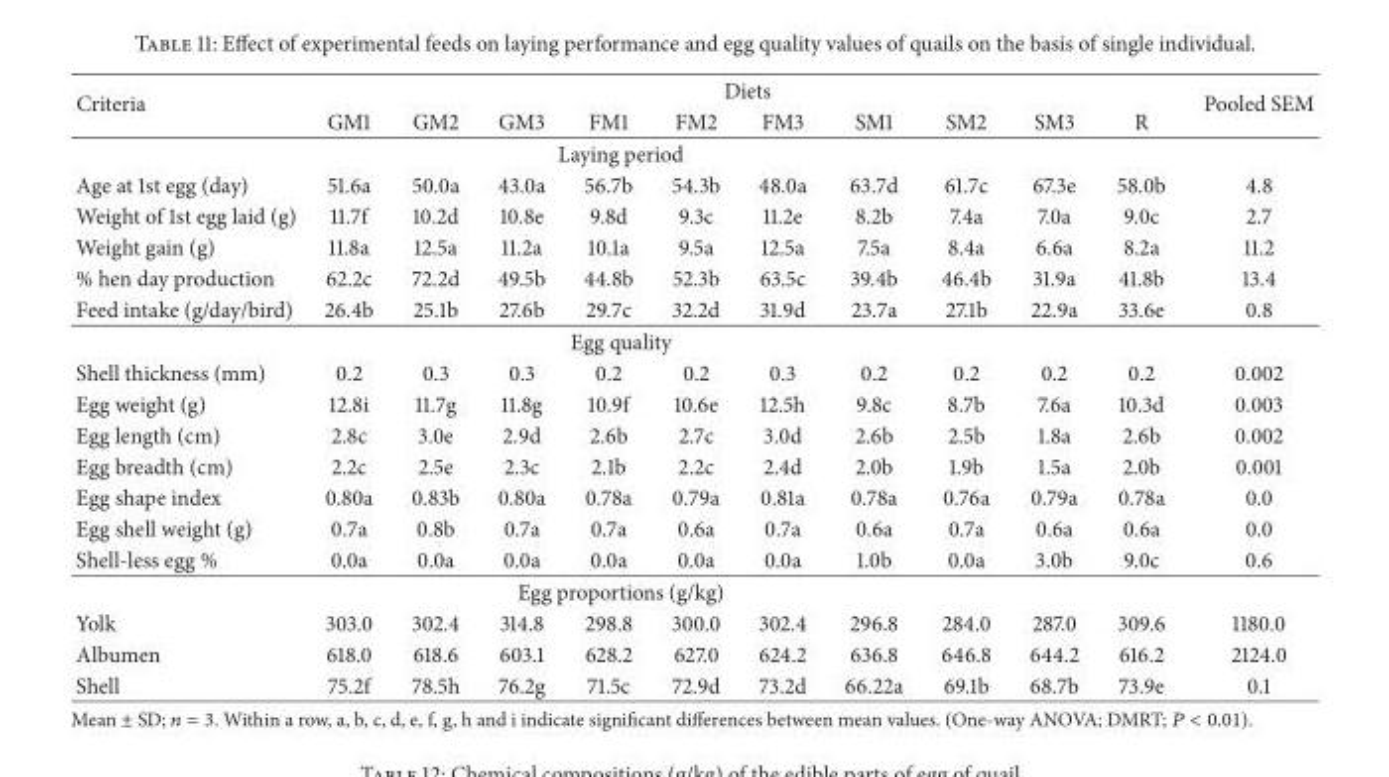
<table><thead><tr><td rowspan="2">Criteria</td><td colspan="10">Diets</td><td rowspan="2">Pooled SEM</td></tr><tr><td>GM1</td><td>GM2</td><td>GM3</td><td>FM1</td><td>FM2</td><td>FM3</td><td>SM1</td><td>SM2</td><td>SM3</td><td>R</td></tr></thead><tbody><tr><td colspan="12">Laying period</td></tr><tr><td>Age at 1st egg (day)</td><td>51.6a</td><td>50.0a</td><td>43.0a</td><td>56.7b</td><td>54.3b</td><td>48.0a</td><td>63.7d</td><td>61.7c</td><td>67.3e</td><td>58.0b</td><td>4.8</td></tr><tr><td>Weight of 1st egg laid (g)</td><td>11.7f</td><td>10.2d</td><td>10.8e</td><td>9.8d</td><td>9.3c</td><td>11.2e</td><td>8.2b</td><td>7.4a</td><td>7.0a</td><td>9.0c</td><td>2.7</td></tr><tr><td>Weight gain (g)</td><td>11.8a</td><td>12.5a</td><td>11.2a</td><td>10.1a</td><td>9.5a</td><td>12.5a</td><td>7.5a</td><td>8.4a</td><td>6.6a</td><td>8.2a</td><td>11.2</td></tr><tr><td>% hen day production</td><td>62.2c</td><td>72.2d</td><td>49.5b</td><td>44.8b</td><td>52.3b</td><td>63.5c</td><td>39.4b</td><td>46.4b</td><td>31.9a</td><td>41.8b</td><td>13.4</td></tr><tr><td>Feed intake (g/day/bird)</td><td>26.4b</td><td>25.1b</td><td>27.6b</td><td>29.7c</td><td>32.2d</td><td>31.9d</td><td>23.7a</td><td>27.1b</td><td>22.9a</td><td>33.6e</td><td>0.8</td></tr><tr><td colspan="12">Egg quality</td></tr><tr><td>Shell thickness (mm)</td><td>0.2</td><td>0.3</td><td>0.3</td><td>0.2</td><td>0.2</td><td>0.3</td><td>0.2</td><td>0.2</td><td>0.2</td><td>0.2</td><td>0.002</td></tr><tr><td>Egg weight (g)</td><td>12.8i</td><td>11.7g</td><td>11.8g</td><td>10.9f</td><td>10.6e</td><td>12.5h</td><td>9.8c</td><td>8.7b</td><td>7.6a</td><td>10.3d</td><td>0.003</td></tr><tr><td>Egg length (cm)</td><td>2.8c</td><td>3.0e</td><td>2.9d</td><td>2.6b</td><td>2.7c</td><td>3.0d</td><td>2.6b</td><td>2.5b</td><td>1.8a</td><td>2.6b</td><td>0.002</td></tr><tr><td>Egg breadth (cm)</td><td>2.2c</td><td>2.5e</td><td>2.3c</td><td>2.1b</td><td>2.2c</td><td>2.4d</td><td>2.0b</td><td>1.9b</td><td>1.5a</td><td>2.0b</td><td>0.001</td></tr><tr><td>Egg shape index</td><td>0.80a</td><td>0.83b</td><td>0.80a</td><td>0.78a</td><td>0.79a</td><td>0.81a</td><td>0.78a</td><td>0.76a</td><td>0.79a</td><td>0.78a</td><td>0.0</td></tr><tr><td>Egg shell weight (g)</td><td>0.7a</td><td>0.8b</td><td>0.7a</td><td>0.7a</td><td>0.6a</td><td>0.7a</td><td>0.6a</td><td>0.7a</td><td>0.6a</td><td>0.6a</td><td>0.0</td></tr><tr><td>Shell-less egg %</td><td>0.0a</td><td>0.0a</td><td>0.0a</td><td>0.0a</td><td>0.0a</td><td>0.0a</td><td>1.0b</td><td>0.0a</td><td>3.0b</td><td>9.0c</td><td>0.6</td></tr><tr><td colspan="12">Egg proportions (g/kg)</td></tr><tr><td>Yolk</td><td>303.0</td><td>302.4</td><td>314.8</td><td>298.8</td><td>300.0</td><td>302.4</td><td>296.8</td><td>284.0</td><td>287.0</td><td>309.6</td><td>1180.0</td></tr><tr><td>Albumen</td><td>618.0</td><td>618.6</td><td>603.1</td><td>628.2</td><td>627.0</td><td>624.2</td><td>636.8</td><td>646.8</td><td>644.2</td><td>616.2</td><td>2124.0</td></tr><tr><td>Shell</td><td>75.2f</td><td>78.5h</td><td>76.2g</td><td>71.5c</td><td>72.9d</td><td>73.2d</td><td>66.22a</td><td>69.1b</td><td>68.7b</td><td>73.9e</td><td>0.1</td></tr></tbody></table>